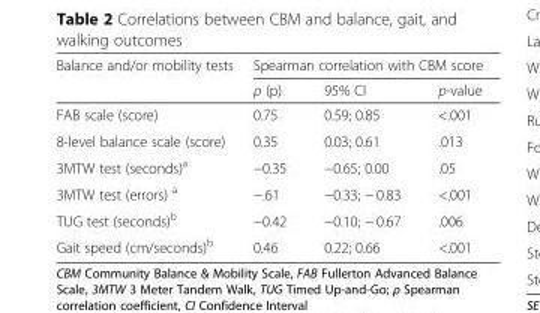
<table><thead><tr><td rowspan="2">Balance and/or mobility tests</td><td colspan="3">Spearman correlation with CBM score</td></tr><tr><td>ρ (p)</td><td>95% CI</td><td>p-value</td></tr></thead><tbody><tr><td>FAB scale (score)</td><td>0.75</td><td>0.59; 0.85</td><td>&lt;.001</td></tr><tr><td>8-level balance scale (score)</td><td>0.35</td><td>0.03; 0.61</td><td>.013</td></tr><tr><td>3MTW test (seconds)<sup>a</sup></td><td>−0.35</td><td>−0.65; 0.00</td><td>.05</td></tr><tr><td>3MTW test (errors) <sup>a</sup></td><td>−.61</td><td>−0.33; − 0.83</td><td>&lt;.001</td></tr><tr><td>TUG test (seconds)<sup>b</sup></td><td>−0.42</td><td>−0.10; − 0.67</td><td>.006</td></tr><tr><td>Gait speed (cm/seconds)<sup>b</sup></td><td>0.46</td><td>0.22; 0.66</td><td>&lt;.001</td></tr></tbody></table>